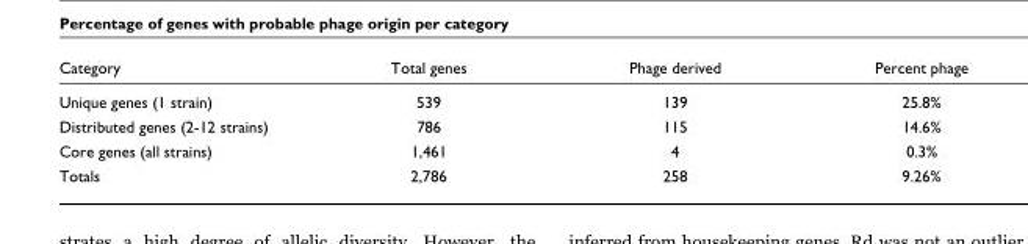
<table><thead><tr><td>Category</td><td>Total genes</td><td>Phage derived</td><td>Percent phage</td></tr></thead><tbody><tr><td>Unique genes (1 strain)</td><td>539</td><td>139</td><td>25.8%</td></tr><tr><td>Distributed genes (2-12 strains)</td><td>786</td><td>115</td><td>14.6%</td></tr><tr><td>Core genes (all strains)</td><td>1,461</td><td>4</td><td>0.3%</td></tr><tr><td>Totals</td><td>2,786</td><td>258</td><td>9.26%</td></tr></tbody></table>